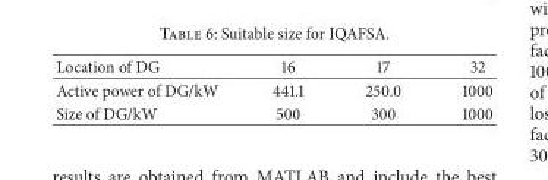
<table><thead><tr><td>Location of DG</td><td>16</td><td>17</td><td>32</td></tr></thead><tbody><tr><td>Active power of DG/kW</td><td>441.1</td><td>250.0</td><td>1000</td></tr><tr><td>Size of DG/kW</td><td>500</td><td>300</td><td>1000</td></tr></tbody></table>